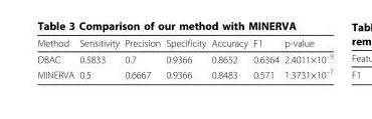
<table><thead><tr><td>Method</td><td>Sensitivity</td><td>Precision</td><td>Specificity</td><td>Accuracy</td><td>F1</td><td>p-value</td></tr></thead><tbody><tr><td>DBAC</td><td>0.5833</td><td>0.7</td><td>0.9366</td><td>0.8652</td><td>0.6364</td><td>2.4011×10<sup>–9</sup></td></tr><tr><td>MINERVA</td><td>0.5</td><td>0.6667</td><td>0.9366</td><td>0.8483</td><td>0.571</td><td>1.3731×10<sup>–7</sup></td></tr></tbody></table>